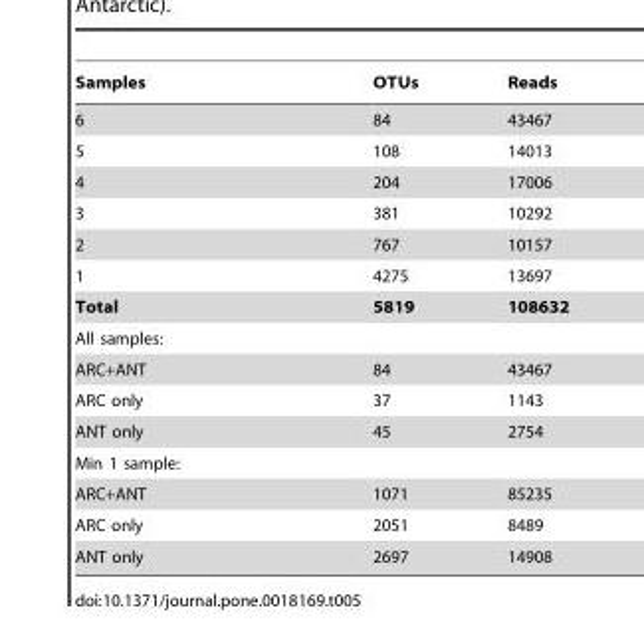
<table><thead><tr><td>Samples</td><td>OTUs</td><td>Reads</td></tr></thead><tbody><tr><td>6</td><td>84</td><td>43467</td></tr><tr><td>5</td><td>108</td><td>14013</td></tr><tr><td>4</td><td>204</td><td>17006</td></tr><tr><td>3</td><td>381</td><td>10292</td></tr><tr><td>2</td><td>767</td><td>10157</td></tr><tr><td>1</td><td>4275</td><td>13697</td></tr><tr><td>Total</td><td>5819</td><td>108632</td></tr><tr><td colspan="3">All samples:</td></tr><tr><td>ARC+ANT</td><td>84</td><td>43467</td></tr><tr><td>ARC only</td><td>37</td><td>1143</td></tr><tr><td>ANT only</td><td>45</td><td>2754</td></tr><tr><td colspan="3">Min 1 sample:</td></tr><tr><td>ARC+ANT</td><td>1071</td><td>85235</td></tr><tr><td>ARC only</td><td>2051</td><td>8489</td></tr><tr><td>ANT only</td><td>2697</td><td>14908</td></tr></tbody></table>